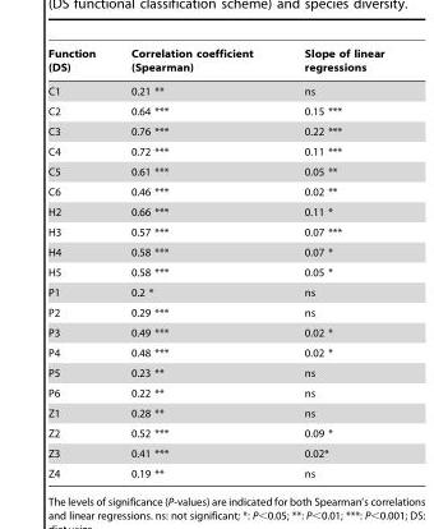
<table><thead><tr><td>Function (DS)</td><td>Correlation coefficient (Spearman)</td><td>Slope of linear regressions</td></tr></thead><tbody><tr><td>C1</td><td>0.21 **</td><td>ns</td></tr><tr><td>C2</td><td>0.64 ***</td><td>0.15 ***</td></tr><tr><td>C3</td><td>0.76 ***</td><td>0.22 ***</td></tr><tr><td>C4</td><td>0.72 ***</td><td>0.11 ***</td></tr><tr><td>C5</td><td>0.61 ***</td><td>0.05 **</td></tr><tr><td>C6</td><td>0.46 ***</td><td>0.02 **</td></tr><tr><td>H2</td><td>0.66 ***</td><td>0.11 *</td></tr><tr><td>H3</td><td>0.57 ***</td><td>0.07 ***</td></tr><tr><td>H4</td><td>0.58 ***</td><td>0.07 *</td></tr><tr><td>H5</td><td>0.58 ***</td><td>0.05 *</td></tr><tr><td>P1</td><td>0.2 *</td><td>ns</td></tr><tr><td>P2</td><td>0.29 ***</td><td>ns</td></tr><tr><td>P3</td><td>0.49 ***</td><td>0.02 *</td></tr><tr><td>P4</td><td>0.48 ***</td><td>0.02 *</td></tr><tr><td>P5</td><td>0.23 **</td><td>ns</td></tr><tr><td>P6</td><td>0.22 **</td><td>ns</td></tr><tr><td>Z1</td><td>0.28 **</td><td>ns</td></tr><tr><td>Z2</td><td>0.52 ***</td><td>0.09 *</td></tr><tr><td>Z3</td><td>0.41 ***</td><td>0.02*</td></tr><tr><td>Z4</td><td>0.19 **</td><td>ns</td></tr></tbody></table>